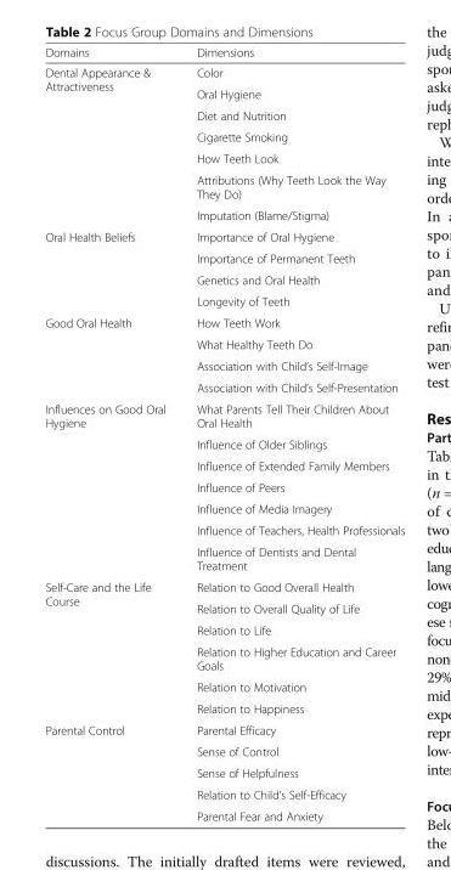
<table><thead><tr><td>Domains</td><td>Dimensions</td></tr></thead><tbody><tr><td rowspan="7">Dental Appearance &amp; Attractiveness</td><td>Color</td></tr><tr><td>Oral Hygiene</td></tr><tr><td>Diet and Nutrition</td></tr><tr><td>Cigarette Smoking</td></tr><tr><td>How Teeth Look</td></tr><tr><td>Attributions (Why Teeth Look the Way They Do)</td></tr><tr><td>Imputation (Blame/Stigma)</td></tr><tr><td rowspan="4">Oral Health Beliefs</td><td>Importance of Oral Hygiene</td></tr><tr><td>Importance of Permanent Teeth</td></tr><tr><td>Genetics and Oral Health</td></tr><tr><td>Longevity of Teeth</td></tr><tr><td rowspan="4">Good Oral Health</td><td>How Teeth Work</td></tr><tr><td>What Healthy Teeth Do</td></tr><tr><td>Association with Child’s Self-Image</td></tr><tr><td>Association with Child’s Self-Presentation</td></tr><tr><td rowspan="7">Influences on Good Oral Hygiene</td><td>What Parents Tell Their Children About Oral Health</td></tr><tr><td>Influence of Older Siblings</td></tr><tr><td>Influence of Extended Family Members</td></tr><tr><td>Influence of Peers</td></tr><tr><td>Influence of Media Imagery</td></tr><tr><td>Influence of Teachers, Health Professionals</td></tr><tr><td>Influence of Dentists and Dental Treatment</td></tr><tr><td rowspan="6">Self-Care and the Life Course</td><td>Relation to Good Overall Health</td></tr><tr><td>Relation to Overall Quality of Life</td></tr><tr><td>Relation to Life</td></tr><tr><td>Relation to Higher Education and Career Goals</td></tr><tr><td>Relation to Motivation</td></tr><tr><td>Relation to Happiness</td></tr><tr><td rowspan="5">Parental Control</td><td>Parental Efficacy</td></tr><tr><td>Sense of Control</td></tr><tr><td>Sense of Helpfulness</td></tr><tr><td>Relation to Child’s Self-Efficacy</td></tr><tr><td>Parental Fear and Anxiety</td></tr></tbody></table>